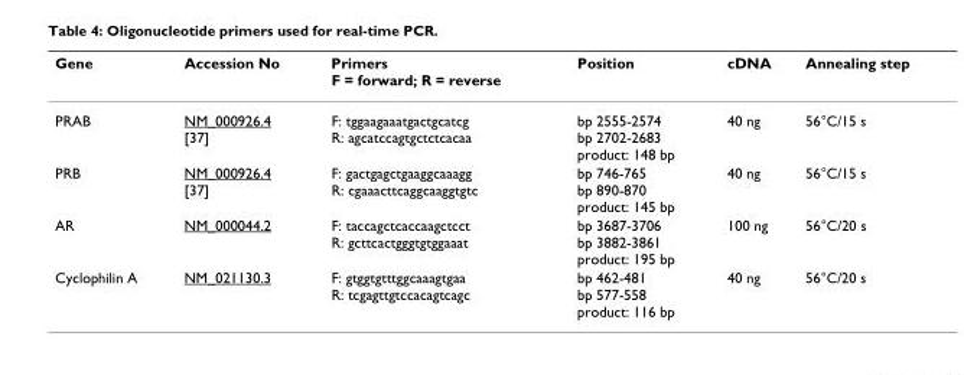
<table><thead><tr><td>Gene</td><td>Accession No</td><td>Primers F = forward; R = reverse</td><td>Position</td><td>cDNA</td><td>Annealing step</td></tr></thead><tbody><tr><td>PRAB</td><td>NM_000926.4 [37]</td><td>F: tggaagaaatgactgcatcg R: agcatccagtgctctcacaa</td><td>bp 2555-2574 bp 2702-2683 product: 148 bp</td><td>40 ng</td><td>56°C/15 s</td></tr><tr><td>PRB</td><td>NM_000926.4 [37]</td><td>F: gactgagctgaaggcaaagg R: cgaaacttcaggcaaggtgtc</td><td>bp 746-765 bp 890-870 product: 145 bp</td><td>40 ng</td><td>56°C/15 s</td></tr><tr><td>AR</td><td>NM_000044.2</td><td>F: taccagctcaccaagctcct R: gcttcactgggtgtggaaat</td><td>bp 3687-3706 bp 3882-3861 product: 195 bp</td><td>100 ng</td><td>56°C/20 s</td></tr><tr><td>Cyclophilin A</td><td>NM_021130.3</td><td>F: gtggtgtttggcaaagtgaa R: tcgagttgtccacagtcagc</td><td>bp 462-481 bp 577-558 product: 116 bp</td><td>40 ng</td><td>56°C/20 s</td></tr></tbody></table>